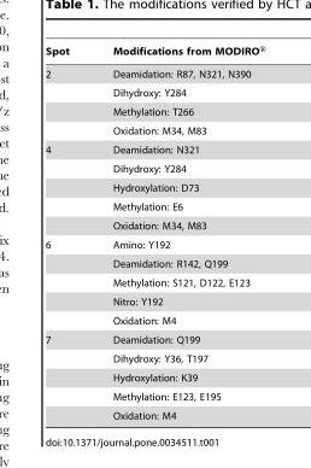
<table><thead><tr><td>Spot</td><td>Modifications from MODIRO®</td></tr></thead><tbody><tr><td rowspan="4">2</td><td>Deamidation: R87, N321, N390</td></tr><tr><td>Dihydroxy: Y284</td></tr><tr><td>Methylation: T266</td></tr><tr><td>Oxidation: M34, M83</td></tr><tr><td rowspan="5">4</td><td>Deamidation: N321</td></tr><tr><td>Dihydroxy: Y284</td></tr><tr><td>Hydroxylation: D73</td></tr><tr><td>Methylation: E6</td></tr><tr><td>Oxidation: M34, M83</td></tr><tr><td rowspan="5">6</td><td>Amino: Y192</td></tr><tr><td>Deamidation: R142, Q199</td></tr><tr><td>Methylation: S121, D122, E123</td></tr><tr><td>Nitro: Y192</td></tr><tr><td>Oxidation: M4</td></tr><tr><td rowspan="5">7</td><td>Deamidation: Q199</td></tr><tr><td>Dihydroxy: Y36, T197</td></tr><tr><td>Hydroxylation: K39</td></tr><tr><td>Methylation: E123, E195</td></tr><tr><td>Oxidation: M4</td></tr></tbody></table>